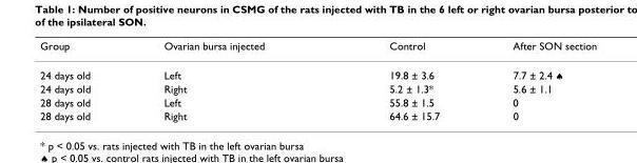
<table><thead><tr><td>Group</td><td>Ovarian bursa injected</td><td>Control</td><td>After SON section</td></tr></thead><tbody><tr><td>24 days old</td><td>Left</td><td>19.8 ± 3.6</td><td>7.7 ± 2.4 ♠</td></tr><tr><td>24 days old</td><td>Right</td><td>5.2 ± 1.3*</td><td>5.6 ± 1.1</td></tr><tr><td>28 days old</td><td>Left</td><td>55.8 ± 1.5</td><td>0</td></tr><tr><td>28 days old</td><td>Right</td><td>64.6 ± 15.7</td><td>0</td></tr></tbody></table>